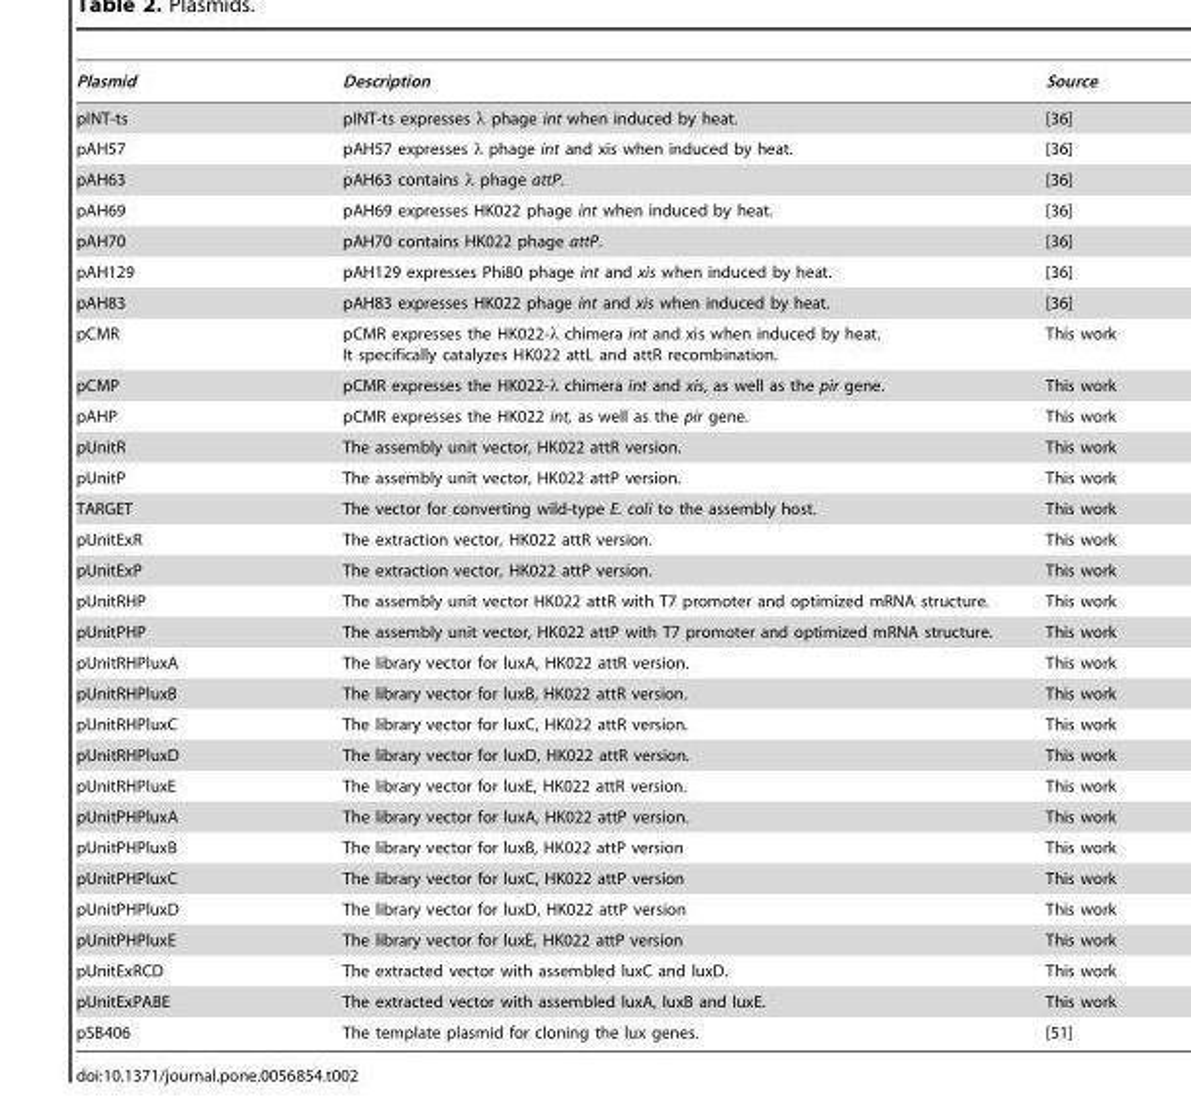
<table><thead><tr><td>Plasmid</td><td>Description</td><td>Source</td></tr></thead><tbody><tr><td>pINT-ts</td><td>pINT-ts expresses λ phage int when induced by heat.</td><td>[36]</td></tr><tr><td>pAH57</td><td>pAH57 expresses λ phage int and xis when induced by heat.</td><td>[36]</td></tr><tr><td>pAH63</td><td>pAH63 contains λ phage attP.</td><td>[36]</td></tr><tr><td>pAH69</td><td>pAH69 expresses HK022 phage int when induced by heat.</td><td>[36]</td></tr><tr><td>pAH70</td><td>pAH70 contains HK022 phage attP.</td><td>[36]</td></tr><tr><td>pAH129</td><td>pAH129 expresses Phi80 phage int and xis when induced by heat.</td><td>[36]</td></tr><tr><td>pAH83</td><td>pAH83 expresses HK022 phage int and xis when induced by heat.</td><td>[36]</td></tr><tr><td>pCMR</td><td>pCMR expresses the HK022-λ chimera int and xis when induced by heat. It specifically catalyzes HK022 attL and attR recombination.</td><td>This work</td></tr><tr><td>pCMP</td><td>pCMR expresses the HK022-λ chimera int and xis, as well as the pir gene.</td><td>This work</td></tr><tr><td>pAHP</td><td>pCMR expresses the HK022 int, as well as the pir gene.</td><td>This work</td></tr><tr><td>pUnitR</td><td>The assembly unit vector, HK022 attR version.</td><td>This work</td></tr><tr><td>pUnitP</td><td>The assembly unit vector, HK022 attP version.</td><td>This work</td></tr><tr><td>TARGET</td><td>The vector for converting wild-type E. coli to the assembly host.</td><td>This work</td></tr><tr><td>pUnitExR</td><td>The extraction vector, HK022 attR version.</td><td>This work</td></tr><tr><td>pUnitExP</td><td>The extraction vector, HK022 attP version.</td><td>This work</td></tr><tr><td>pUnitRHP</td><td>The assembly unit vector HK022 attR with T7 promoter and optimized mRNA structure.</td><td>This work</td></tr><tr><td>pUnitPHP</td><td>The assembly unit vector, HK022 attP with T7 promoter and optimized mRNA structure.</td><td>This work</td></tr><tr><td>pUnitRHPluxA</td><td>The library vector for luxA, HK022 attR version.</td><td>This work</td></tr><tr><td>pUnitRHPluxB</td><td>The library vector for luxB, HK022 attR version.</td><td>This work</td></tr><tr><td>pUnitRHPluxC</td><td>The library vector for luxC, HK022 attR version.</td><td>This work</td></tr><tr><td>pUnitRHPluxD</td><td>The library vector for luxD, HK022 attR version.</td><td>This work</td></tr><tr><td>pUnitRHPluxE</td><td>The library vector for luxE, HK022 attR version.</td><td>This work</td></tr><tr><td>pUnitPHPluxA</td><td>The library vector for luxA, HK022 attP version.</td><td>This work</td></tr><tr><td>pUnitPHPluxB</td><td>The library vector for luxB, HK022 attP version</td><td>This work</td></tr><tr><td>pUnitPHPluxC</td><td>The library vector for luxC, HK022 attP version</td><td>This work</td></tr><tr><td>pUnitPHPluxD</td><td>The library vector for luxD, HK022 attP version</td><td>This work</td></tr><tr><td>pUnitPHPluxE</td><td>The library vector for luxE, HK022 attP version</td><td>This work</td></tr><tr><td>pUnitExRCD</td><td>The extracted vector with assembled luxC and luxD.</td><td>This work</td></tr><tr><td>pUnitExPABE</td><td>The extracted vector with assembled luxA, luxB and luxE.</td><td>This work</td></tr><tr><td>pSB406</td><td>The template plasmid for cloning the lux genes.</td><td>[51]</td></tr></tbody></table>